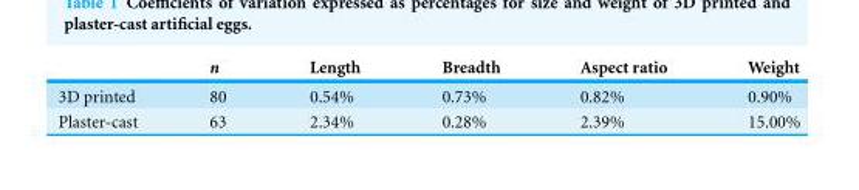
<table><thead><tr><td></td><td>n</td><td>Length</td><td>Breadth</td><td>Aspect ratio</td><td>Weight</td></tr></thead><tbody><tr><td>3D printed</td><td>80</td><td>0.54%</td><td>0.73%</td><td>0.82%</td><td>0.90%</td></tr><tr><td>Plaster-cast</td><td>63</td><td>2.34%</td><td>0.28%</td><td>2.39%</td><td>15.00%</td></tr></tbody></table>